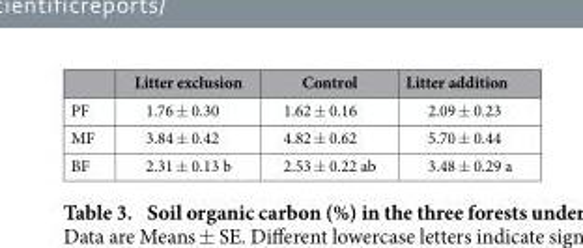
<table><thead><tr><td></td><td>Litter exclusion</td><td>Control</td><td>Litter addition</td></tr></thead><tbody><tr><td>PF</td><td>1.76 ± 0.30</td><td>1.62 ± 0.16</td><td>2.09 ± 0.23</td></tr><tr><td>MF</td><td>3.84 ± 0.42</td><td>4.82 ± 0.62</td><td>5.70 ± 0.44</td></tr><tr><td>BF</td><td>2.31 ± 0.13 b</td><td>2.53 ± 0.22 ab</td><td>3.48 ± 0.29 a</td></tr></tbody></table>